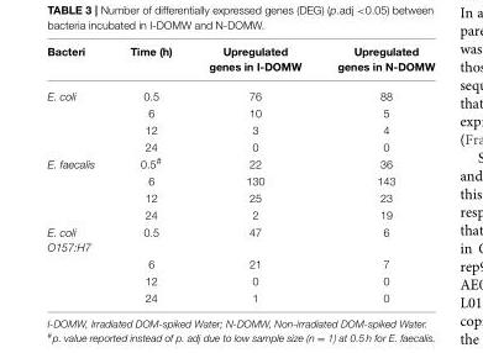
<table><thead><tr><td>Bacteri</td><td>Time (h)</td><td>Upregulated genes in I-DOMW</td><td>Upregulated genes in N-DOMW</td></tr></thead><tbody><tr><td rowspan="4">E. coli</td><td>0.5</td><td>76</td><td>88</td></tr><tr><td>6</td><td>10</td><td>5</td></tr><tr><td>12</td><td>3</td><td>4</td></tr><tr><td>24</td><td>0</td><td>0</td></tr><tr><td rowspan="4">E. faecalis</td><td>0.5<sup>#</sup></td><td>22</td><td>36</td></tr><tr><td>6</td><td>130</td><td>143</td></tr><tr><td>12</td><td>25</td><td>23</td></tr><tr><td>24</td><td>2</td><td>19</td></tr><tr><td rowspan="4">E. coli O157:H7</td><td>0.5</td><td>47</td><td>6</td></tr><tr><td>6</td><td>21</td><td>7</td></tr><tr><td>12</td><td>0</td><td>0</td></tr><tr><td>24</td><td>1</td><td>0</td></tr></tbody></table>